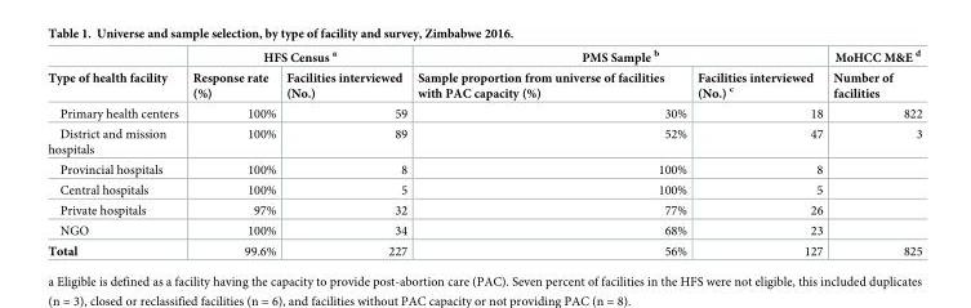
<table><thead><tr><td rowspan="2">Type of health facility</td><td colspan="2">HFS Census <sup>a</sup></td><td colspan="2">PMS Sample <sup>b</sup></td><td rowspan="2">MoHCC M&amp;E <sup>d</sup> Number of facilities</td></tr><tr><td>Response rate (%)</td><td>Facilities interviewed (No.)</td><td>Sample proportion from universe of facilities with PAC capacity (%)</td><td>Facilities interviewed (No.) <sup>c</sup></td></tr></thead><tbody><tr><td>Primary health centers</td><td>100%</td><td>59</td><td>30%</td><td>18</td><td>822</td></tr><tr><td>District and mission hospitals</td><td>100%</td><td>89</td><td>52%</td><td>47</td><td>3</td></tr><tr><td>Provincial hospitals</td><td>100%</td><td>8</td><td>100%</td><td>8</td><td></td></tr><tr><td>Central hospitals</td><td>100%</td><td>5</td><td>100%</td><td>5</td><td></td></tr><tr><td>Private hospitals</td><td>97%</td><td>32</td><td>77%</td><td>26</td><td></td></tr><tr><td>NGO</td><td>100%</td><td>34</td><td>68%</td><td>23</td><td></td></tr><tr><td>Total</td><td>99.6%</td><td>227</td><td>56%</td><td>127</td><td>825</td></tr></tbody></table>